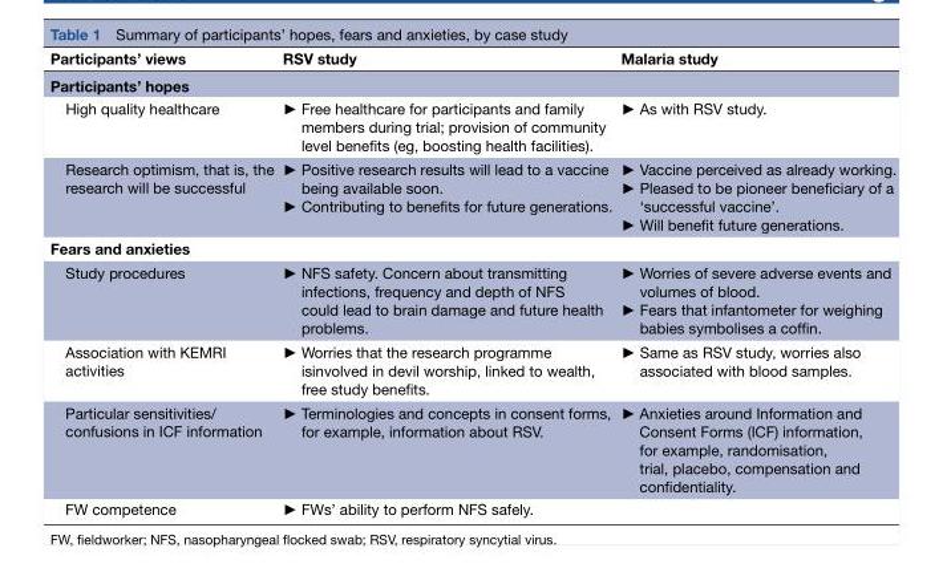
<table><thead><tr><td>Participants’ views</td><td>RSV study</td><td>Malaria study</td></tr></thead><tbody><tr><td colspan="3">Participants’ hopes</td></tr><tr><td>High quality healthcare</td><td>► Free healthcare for participants and family members during trial; provision of community level benefits (eg, boosting health facilities).</td><td>► As with RSV study.</td></tr><tr><td>Research optimism, that is, the research will be successful</td><td>► Positive research results will lead to a vaccine being available soon. ► Contributing to benefits for future generations.</td><td>► Vaccine perceived as already working. ► Pleased to be pioneer beneficiary of a ‘successful vaccine’. ► Will benefit future generations.</td></tr><tr><td colspan="3">Fears and anxieties</td></tr><tr><td>Study procedures</td><td>► NFS safety. Concern about transmitting infections, frequency and depth of NFS could lead to brain damage and future health problems.</td><td>► Worries of severe adverse events and volumes of blood. ► Fears that infantometer for weighing babies symbolises a coffin.</td></tr><tr><td>Association with KEMRI activities</td><td>► Worries that the research programme isinvolved in devil worship, linked to wealth, free study benefits.</td><td>► Same as RSV study, worries also associated with blood samples.</td></tr><tr><td>Particular sensitivities/ confusions in ICF information</td><td>► Terminologies and concepts in consent forms, for example, information about RSV.</td><td>► Anxieties around Information and Consent Forms (ICF) information, for example, randomisation, trial, placebo, compensation and confidentiality.</td></tr><tr><td>FW competence</td><td>► FWs’ ability to perform NFS safely.</td><td></td></tr></tbody></table>